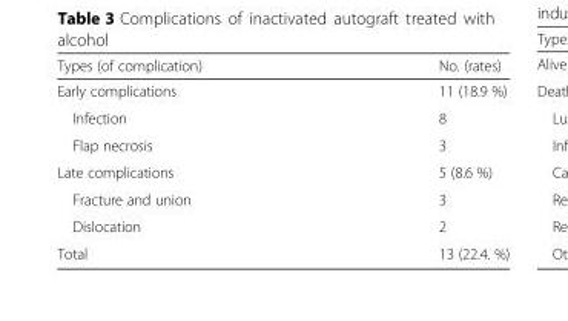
<table><thead><tr><td>Types (of complication)</td><td>No. (rates)</td></tr></thead><tbody><tr><td>Early complications</td><td>11 (18.9 %)</td></tr><tr><td>Infection</td><td>8</td></tr><tr><td>Flap necrosis</td><td>3</td></tr><tr><td>Late complications</td><td>5 (8.6 %)</td></tr><tr><td>Fracture and union</td><td>3</td></tr><tr><td>Dislocation</td><td>2</td></tr><tr><td>Total</td><td>13 (22.4. %)</td></tr></tbody></table>